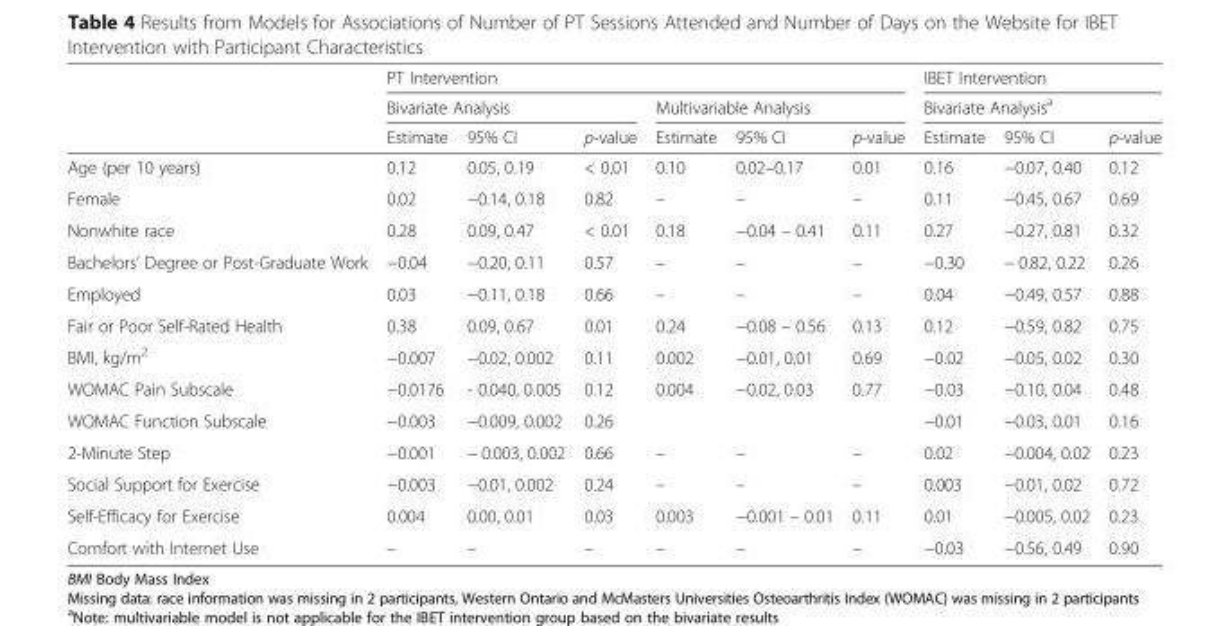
<table><thead><tr><td rowspan="3"></td><td colspan="6">PT Intervention</td><td rowspan="2" colspan="3">IBET Intervention Bivariate Analysis<sup>a</sup></td></tr><tr><td colspan="3">Bivariate Analysis</td><td colspan="3">Multivariable Analysis</td></tr><tr><td>Estimate</td><td>95% CI</td><td>p-value</td><td>Estimate</td><td>95% CI</td><td>p-value</td><td>Estimate</td><td>95% CI</td><td>p-value</td></tr></thead><tbody><tr><td>Age (per 10 years)</td><td>0.12</td><td>0.05, 0.19</td><td>&lt; 0.01</td><td>0.10</td><td>0.02–0.17</td><td>0.01</td><td>0.16</td><td>−0.07, 0.40</td><td>0.12</td></tr><tr><td>Female</td><td>0.02</td><td>−0.14, 0.18</td><td>0.82</td><td>–</td><td>–</td><td>–</td><td>0.11</td><td>−0.45, 0.67</td><td>0.69</td></tr><tr><td>Nonwhite race</td><td>0.28</td><td>0.09, 0.47</td><td>&lt; 0.01</td><td>0.18</td><td>−0.04 – 0.41</td><td>0.11</td><td>0.27</td><td>−0.27, 0.81</td><td>0.32</td></tr><tr><td>Bachelors’ Degree or Post-Graduate Work</td><td>−0.04</td><td>−0.20, 0.11</td><td>0.57</td><td>–</td><td>–</td><td>–</td><td>−0.30</td><td>− 0.82, 0.22</td><td>0.26</td></tr><tr><td>Employed</td><td>0.03</td><td>−0.11, 0.18</td><td>0.66</td><td>–</td><td>–</td><td>–</td><td>0.04</td><td>−0.49, 0.57</td><td>0.88</td></tr><tr><td>Fair or Poor Self-Rated Health</td><td>0.38</td><td>0.09, 0.67</td><td>0.01</td><td>0.24</td><td>−0.08 – 0.56</td><td>0.13</td><td>0.12</td><td>−0.59, 0.82</td><td>0.75</td></tr><tr><td>BMI, kg/m<sup>2</sup></td><td>−0.007</td><td>−0.02, 0.002</td><td>0.11</td><td>0.002</td><td>−0.01, 0.01</td><td>0.69</td><td>−0.02</td><td>−0.05, 0.02</td><td>0.30</td></tr><tr><td>WOMAC Pain Subscale</td><td>−0.0176</td><td>- 0.040, 0.005</td><td>0.12</td><td>0.004</td><td>−0.02, 0.03</td><td>0.77</td><td>−0.03</td><td>−0.10, 0.04</td><td>0.48</td></tr><tr><td>WOMAC Function Subscale</td><td>−0.003</td><td>−0.009, 0.002</td><td>0.26</td><td></td><td></td><td></td><td>−0.01</td><td>−0.03, 0.01</td><td>0.16</td></tr><tr><td>2-Minute Step</td><td>−0.001</td><td>− 0.003, 0.002</td><td>0.66</td><td>–</td><td>–</td><td>–</td><td>0.02</td><td>−0.004, 0.02</td><td>0.23</td></tr><tr><td>Social Support for Exercise</td><td>−0.003</td><td>−0.01, 0.002</td><td>0.24</td><td>–</td><td>–</td><td>–</td><td>0.003</td><td>−0.01, 0.02</td><td>0.72</td></tr><tr><td>Self-Efficacy for Exercise</td><td>0.004</td><td>0.00, 0.01</td><td>0.03</td><td>0.003</td><td>−0.001 – 0.01</td><td>0.11</td><td>0.01</td><td>−0.005, 0.02</td><td>0.23</td></tr><tr><td>Comfort with Internet Use</td><td>–</td><td>–</td><td>–</td><td>–</td><td>–</td><td>–</td><td>−0.03</td><td>−0.56, 0.49</td><td>0.90</td></tr></tbody></table>